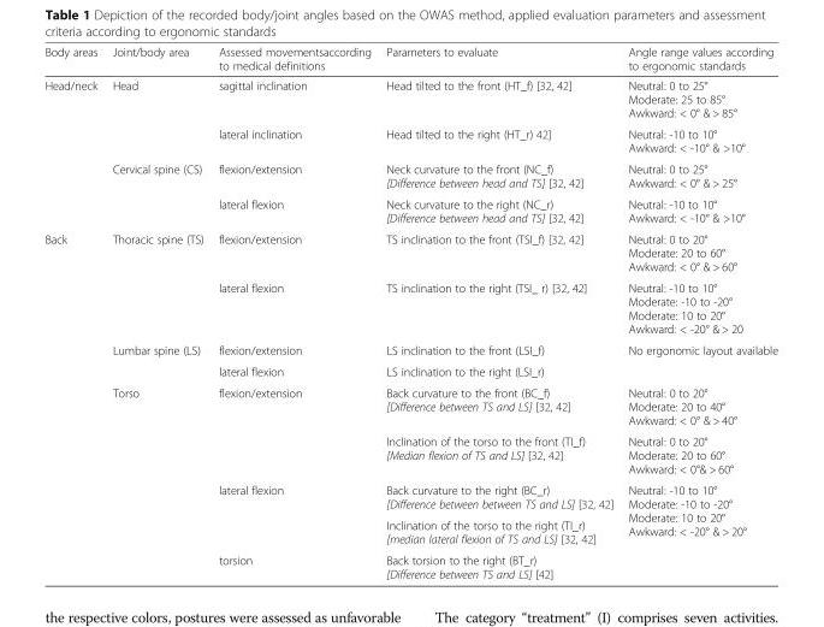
<table><thead><tr><td>Body areas</td><td>Joint/body area</td><td>Assessed movementsaccording to medical definitions</td><td>Parameters to evaluate</td><td>Angle range values according to ergonomic standards</td></tr></thead><tbody><tr><td rowspan="4">Head/neck</td><td rowspan="2">Head</td><td>sagittal inclination</td><td>Head tilted to the front (HT_f) [32, 42]</td><td>Neutral: 0 to 25° Moderate: 25 to 85° Awkward: &lt; 0° &amp; &gt; 85°</td></tr><tr><td>lateral inclination</td><td>Head tilted to the right (HT_r) 42]</td><td>Neutral: -10 to 10° Awkward: &lt; -10° &amp; &gt;10°</td></tr><tr><td rowspan="2">Cervical spine (CS)</td><td>flexion/extension</td><td>Neck curvature to the front (NC_f) [Difference between head and TS] [32, 42]</td><td>Neutral: 0 to 25° Awkward: &lt; 0° &amp; &gt; 25°</td></tr><tr><td>lateral flexion</td><td>Neck curvature to the right (NC_r) [Difference between head and TS] [32, 42]</td><td>Neutral: -10 to 10° Awkward: &lt; -10° &amp; &gt;10°</td></tr><tr><td rowspan="9">Back</td><td rowspan="2">Thoracic spine (TS)</td><td>flexion/extension</td><td>TS inclination to the front (TSI_f) [32, 42]</td><td>Neutral: 0 to 20° Moderate: 20 to 60° Awkward: &lt; 0° &amp; &gt; 60°</td></tr><tr><td>lateral flexion</td><td>TS inclination to the right (TSI_ r) [32, 42]</td><td>Neutral: -10 to 10° Moderate: -10 to -20° Moderate: 10 to 20° Awkward: &lt; -20° &amp; &gt; 20</td></tr><tr><td rowspan="2">Lumbar spine (LS)</td><td>flexion/extension</td><td>LS inclination to the front (LSI_f)</td><td rowspan="2">No ergonomic layout available</td></tr><tr><td>lateral flexion</td><td>LS inclination to the right (LSI_r)</td></tr><tr><td rowspan="5">Torso</td><td rowspan="2">flexion/extension</td><td>Back curvature to the front (BC_f) [Difference between TS and LS] [32, 42]</td><td>Neutral: 0 to 20° Moderate: 20 to 40° Awkward: &lt; 0° &amp; &gt; 40°</td></tr><tr><td>Inclination of the torso to the front (TI_f) [Median flexion of TS and LS] [32, 42]</td><td>Neutral: 0 to 20° Moderate: 20 to 60° Awkward: &lt; 0°&amp; &gt; 60°</td></tr><tr><td rowspan="2">lateral flexion</td><td>Back curvature to the right (BC_r) [Difference between between TS and LS] [32, 42]</td><td rowspan="3">Neutral: -10 to 10° Moderate: -10 to -20° Moderate: 10 to 20° Awkward: &lt; -20° &amp; &gt; 20°</td></tr><tr><td>Inclination of the torso to the right (TI_r) [median lateral flexion of TS and LS] [32, 42]</td></tr><tr><td>torsion</td><td>Back torsion to the right (BT_r) [Difference between TS and LS] [42]</td></tr></tbody></table>